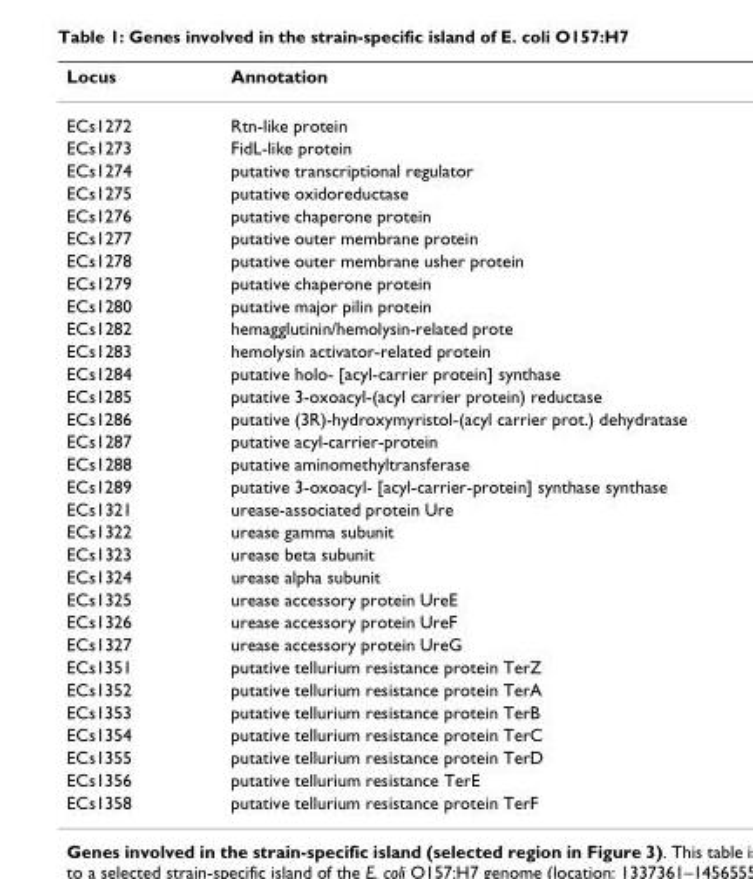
<table><thead><tr><td>Locus</td><td>Annotation</td></tr></thead><tbody><tr><td>ECs1272</td><td>Rtn-like protein</td></tr><tr><td>ECs1273</td><td>FidL-like protein</td></tr><tr><td>ECs1274</td><td>putative transcriptional regulator</td></tr><tr><td>ECs1275</td><td>putative oxidoreductase</td></tr><tr><td>ECs1276</td><td>putative chaperone protein</td></tr><tr><td>ECs1277</td><td>putative outer membrane protein</td></tr><tr><td>ECs1278</td><td>putative outer membrane usher protein</td></tr><tr><td>ECs1279</td><td>putative chaperone protein</td></tr><tr><td>ECs1280</td><td>putative major pilin protein</td></tr><tr><td>ECs1282</td><td>hemagglutinin/hemolysin-related prote</td></tr><tr><td>ECs1283</td><td>hemolysin activator-related protein</td></tr><tr><td>ECs1284</td><td>putative holo- [acyl-carrier protein] synthase</td></tr><tr><td>ECs1285</td><td>putative 3-oxoacyl-(acyl carrier protein) reductase</td></tr><tr><td>ECs1286</td><td>putative (3R)-hydroxymyristol-(acyl carrier prot.) dehydratase</td></tr><tr><td>ECs1287</td><td>putative acyl-carrier-protein</td></tr><tr><td>ECs1288</td><td>putative aminomethyltransferase</td></tr><tr><td>ECs1289</td><td>putative 3-oxoacyl- [acyl-carrier-protein] synthase synthase</td></tr><tr><td>ECs1321</td><td>urease-associated protein Ure</td></tr><tr><td>ECs1322</td><td>urease gamma subunit</td></tr><tr><td>ECs1323</td><td>urease beta subunit</td></tr><tr><td>ECs1324</td><td>urease alpha subunit</td></tr><tr><td>ECs1325</td><td>urease accessory protein UreE</td></tr><tr><td>ECs1326</td><td>urease accessory protein UreF</td></tr><tr><td>ECs1327</td><td>urease accessory protein UreG</td></tr><tr><td>ECs1351</td><td>putative tellurium resistance protein TerZ</td></tr><tr><td>ECs1352</td><td>putative tellurium resistance protein TerA</td></tr><tr><td>ECs1353</td><td>putative tellurium resistance protein TerB</td></tr><tr><td>ECs1354</td><td>putative tellurium resistance protein TerC</td></tr><tr><td>ECs1355</td><td>putative tellurium resistance protein TerD</td></tr><tr><td>ECs1356</td><td>putative tellurium resistance TerE</td></tr><tr><td>ECs1358</td><td>putative tellurium resistance protein TerF</td></tr></tbody></table>